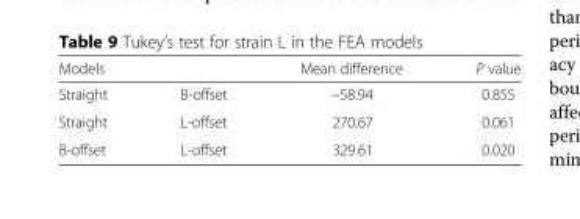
<table><thead><tr><td colspan="2">Models</td><td rowspan="2">Mean difference −58.94</td><td rowspan="2">P value 0.855</td></tr><tr><td>Straight</td><td>B-offset</td></tr></thead><tbody><tr><td>Straight</td><td>L-offset</td><td>270.67</td><td>0.061</td></tr><tr><td>B-offset</td><td>L-offset</td><td>329.61</td><td>0.020</td></tr></tbody></table>